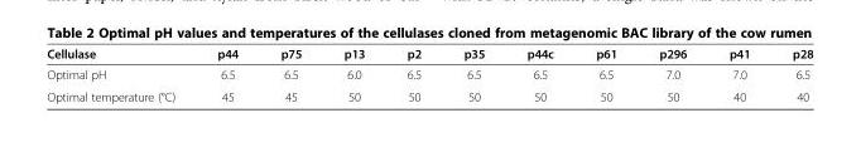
<table><thead><tr><td>Cellulase</td><td>p44</td><td>p75</td><td>p13</td><td>p2</td><td>p35</td><td>p44c</td><td>p61</td><td>p296</td><td>p41</td><td>p28</td></tr></thead><tbody><tr><td>Optimal pH</td><td>6.5</td><td>6.5</td><td>6.0</td><td>6.5</td><td>6.5</td><td>6.5</td><td>6.5</td><td>7.0</td><td>7.0</td><td>6.5</td></tr><tr><td>Optimal temperature (°C)</td><td>45</td><td>45</td><td>50</td><td>50</td><td>50</td><td>50</td><td>50</td><td>50</td><td>40</td><td>40</td></tr></tbody></table>